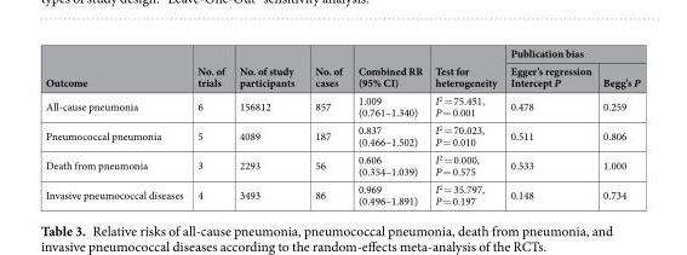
<table><thead><tr><td rowspan="2">Outcome</td><td rowspan="2">No. of trials</td><td rowspan="2">No. of study participants</td><td rowspan="2">No. of cases</td><td rowspan="2">Combined RR (95% CI)</td><td rowspan="2">Test for heterogeneity</td><td colspan="2">Publication bias</td></tr><tr><td>Egger’s regression Intercept P</td><td>Begg’s P</td></tr></thead><tbody><tr><td>All-cause pneumonia</td><td>6</td><td>156812</td><td>857</td><td>1.009 (0.761–1.340)</td><td>I<sup>2</sup> = 75.451, P = 0.001</td><td>0.478</td><td>0.259</td></tr><tr><td>Pneumococcal pneumonia</td><td>5</td><td>4089</td><td>187</td><td>0.837 (0.466–1.502)</td><td>I<sup>2</sup> = 70.023, P = 0.010</td><td>0.511</td><td>0.806</td></tr><tr><td>Death from pneumonia</td><td>3</td><td>2293</td><td>56</td><td>0.606 (0.354–1.039)</td><td>I<sup>2</sup> = 0.000, P = 0.575</td><td>0.533</td><td>1.000</td></tr><tr><td>Invasive pneumococcal diseases</td><td>4</td><td>3493</td><td>86</td><td>0.969 (0.496–1.891)</td><td>I<sup>2</sup> = 35.797, P = 0.197</td><td>0.148</td><td>0.734</td></tr></tbody></table>